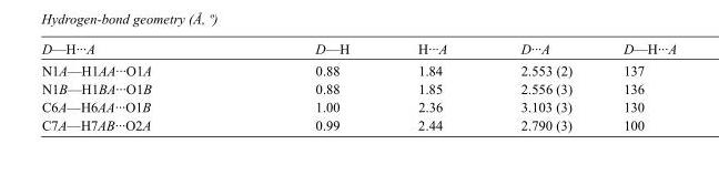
<table><tbody><tr><td>D—H···A</td><td>D—H</td><td>H···A</td><td>D···A</td><td>D—H···A</td></tr><tr><td>N1A—H1AA···O1A</td><td>0.88</td><td>1.84</td><td>2.553 (2)</td><td>137</td></tr><tr><td>N1B—H1BA···O1B</td><td>0.88</td><td>1.85</td><td>2.556 (3)</td><td>136</td></tr><tr><td>C6A—H6AA···O1B</td><td>1.00</td><td>2.36</td><td>3.103 (3)</td><td>130</td></tr><tr><td>C7A—H7AB···O2A</td><td>0.99</td><td>2.44</td><td>2.790 (3)</td><td>100</td></tr></tbody></table>